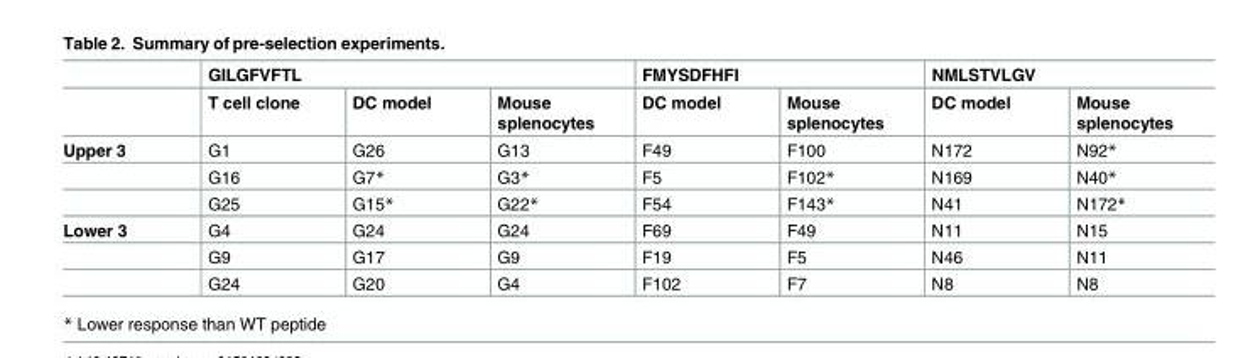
<table><thead><tr><td rowspan="2"></td><td colspan="3">GILGFVFTL</td><td colspan="2">FMYSDFHFI</td><td colspan="2">NMLSTVLGV</td></tr><tr><td>T cell clone</td><td>DC model</td><td>Mouse splenocytes</td><td>DC model</td><td>Mouse splenocytes</td><td>DC model</td><td>Mouse splenocytes</td></tr></thead><tbody><tr><td rowspan="3">Upper 3</td><td>G1</td><td>G26</td><td>G13</td><td>F49</td><td>F100</td><td>N172</td><td>N92*</td></tr><tr><td>G16</td><td>G7*</td><td>G3*</td><td>F5</td><td>F102*</td><td>N169</td><td>N40*</td></tr><tr><td>G25</td><td>G15*</td><td>G22*</td><td>F54</td><td>F143*</td><td>N41</td><td>N172*</td></tr><tr><td rowspan="3">Lower 3</td><td>G4</td><td>G24</td><td>G24</td><td>F69</td><td>F49</td><td>N11</td><td>N15</td></tr><tr><td>G9</td><td>G17</td><td>G9</td><td>F19</td><td>F5</td><td>N46</td><td>N11</td></tr><tr><td>G24</td><td>G20</td><td>G4</td><td>F102</td><td>F7</td><td>N8</td><td>N8</td></tr></tbody></table>